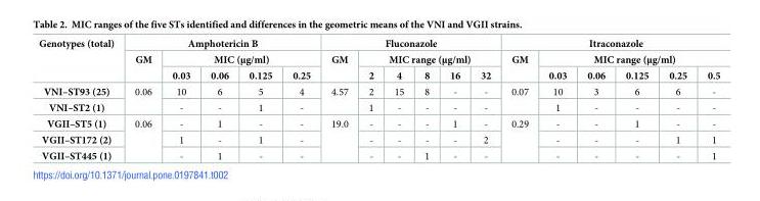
<table><thead><tr><td rowspan="3">Genotypes (total)</td><td colspan="5">Amphotericin B</td><td colspan="6">Fluconazole</td><td colspan="6">Itraconazole</td></tr><tr><td rowspan="2">GM</td><td colspan="4">MIC (μg/ml)</td><td rowspan="2">GM</td><td colspan="5">MIC range (μg/ml)</td><td rowspan="2">GM</td><td colspan="5">MIC range (μg/ml)</td></tr><tr><td>0.03</td><td>0.06</td><td>0.125</td><td>0.25</td><td>2</td><td>4</td><td>8</td><td>16</td><td>32</td><td>0.03</td><td>0.06</td><td>0.125</td><td>0.25</td><td>0.5</td></tr></thead><tbody><tr><td>VNI–ST93 (25)</td><td rowspan="2">0.06</td><td>10</td><td>6</td><td>5</td><td>4</td><td rowspan="2">4.57</td><td>2</td><td>15</td><td>8</td><td>-</td><td>-</td><td rowspan="2">0.07</td><td>10</td><td>3</td><td>6</td><td>6</td><td>-</td></tr><tr><td>VNI–ST2 (1)</td><td>-</td><td>-</td><td>1</td><td>-</td><td>1</td><td>-</td><td>-</td><td>-</td><td>-</td><td>1</td><td>-</td><td>-</td><td>-</td><td>-</td></tr><tr><td>VGII–ST5 (1)</td><td rowspan="3">0.06</td><td>-</td><td>1</td><td>-</td><td>-</td><td rowspan="3">19.0</td><td>-</td><td>-</td><td>-</td><td>1</td><td>-</td><td rowspan="3">0.29</td><td>-</td><td>-</td><td>1</td><td>-</td><td>-</td></tr><tr><td>VGII–ST172 (2)</td><td>1</td><td>-</td><td>1</td><td>-</td><td>-</td><td>-</td><td>-</td><td>-</td><td>2</td><td>-</td><td>-</td><td>-</td><td>1</td><td>1</td></tr><tr><td>VGII–ST445 (1)</td><td>-</td><td>1</td><td>-</td><td>-</td><td>-</td><td>-</td><td>1</td><td>-</td><td>-</td><td>-</td><td>-</td><td>-</td><td>-</td><td>1</td></tr></tbody></table>